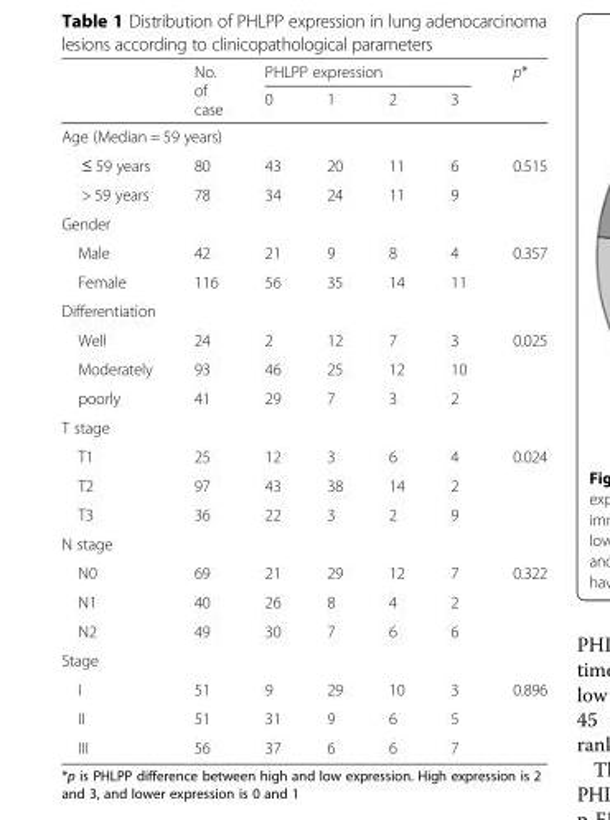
<table><thead><tr><td rowspan="2"></td><td rowspan="2">No. of case</td><td colspan="4">PHLPP expression</td><td rowspan="2">p*</td></tr><tr><td>0</td><td>1</td><td>2</td><td>3</td></tr></thead><tbody><tr><td colspan="7">Age (Median = 59 years)</td></tr><tr><td>≤ 59 years</td><td>80</td><td>43</td><td>20</td><td>11</td><td>6</td><td rowspan="2">0.515</td></tr><tr><td>&gt; 59 years</td><td>78</td><td>34</td><td>24</td><td>11</td><td>9</td></tr><tr><td colspan="7">Gender</td></tr><tr><td>Male</td><td>42</td><td>21</td><td>9</td><td>8</td><td>4</td><td rowspan="2">0.357</td></tr><tr><td>Female</td><td>116</td><td>56</td><td>35</td><td>14</td><td>11</td></tr><tr><td colspan="7">Differentiation</td></tr><tr><td>Well</td><td>24</td><td>2</td><td>12</td><td>7</td><td>3</td><td rowspan="3">0.025</td></tr><tr><td>Moderately</td><td>93</td><td>46</td><td>25</td><td>12</td><td>10</td></tr><tr><td>poorly</td><td>41</td><td>29</td><td>7</td><td>3</td><td>2</td></tr><tr><td colspan="7">T stage</td></tr><tr><td>T1</td><td>25</td><td>12</td><td>3</td><td>6</td><td>4</td><td rowspan="3">0.024</td></tr><tr><td>T2</td><td>97</td><td>43</td><td>38</td><td>14</td><td>2</td></tr><tr><td>T3</td><td>36</td><td>22</td><td>3</td><td>2</td><td>9</td></tr><tr><td colspan="7">N stage</td></tr><tr><td>N0</td><td>69</td><td>21</td><td>29</td><td>12</td><td>7</td><td rowspan="3">0.322</td></tr><tr><td>N1</td><td>40</td><td>26</td><td>8</td><td>4</td><td>2</td></tr><tr><td>N2</td><td>49</td><td>30</td><td>7</td><td>6</td><td>6</td></tr><tr><td colspan="7">Stage</td></tr><tr><td>I</td><td>51</td><td>9</td><td>29</td><td>10</td><td>3</td><td rowspan="3">0.896</td></tr><tr><td>II</td><td>51</td><td>31</td><td>9</td><td>6</td><td>5</td></tr><tr><td>III</td><td>56</td><td>37</td><td>6</td><td>6</td><td>7</td></tr></tbody></table>